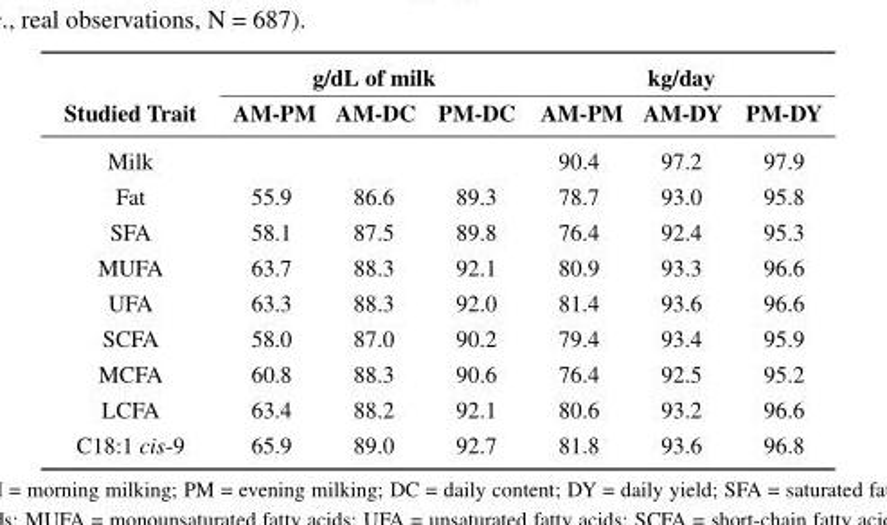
<table><thead><tr><td rowspan="2">Studied Trait</td><td colspan="3">g/dL of milk</td><td colspan="3">kg/day</td></tr><tr><td>AM-PM</td><td>AM-DC</td><td>PM-DC</td><td>AM-PM</td><td>AM-DY</td><td>PM-DY</td></tr></thead><tbody><tr><td>Milk</td><td></td><td></td><td></td><td>90.4</td><td>97.2</td><td>97.9</td></tr><tr><td>Fat</td><td>55.9</td><td>86.6</td><td>89.3</td><td>78.7</td><td>93.0</td><td>95.8</td></tr><tr><td>SFA</td><td>58.1</td><td>87.5</td><td>89.8</td><td>76.4</td><td>92.4</td><td>95.3</td></tr><tr><td>MUFA</td><td>63.7</td><td>88.3</td><td>92.1</td><td>80.9</td><td>93.3</td><td>96.6</td></tr><tr><td>UFA</td><td>63.3</td><td>88.3</td><td>92.0</td><td>81.4</td><td>93.6</td><td>96.6</td></tr><tr><td>SCFA</td><td>58.0</td><td>87.0</td><td>90.2</td><td>79.4</td><td>93.4</td><td>95.9</td></tr><tr><td>MCFA</td><td>60.8</td><td>88.3</td><td>90.6</td><td>76.4</td><td>92.5</td><td>95.2</td></tr><tr><td>LCFA</td><td>63.4</td><td>88.2</td><td>92.1</td><td>80.6</td><td>93.2</td><td>96.6</td></tr><tr><td>C18:1 cis-9</td><td>65.9</td><td>89.0</td><td>92.7</td><td>81.8</td><td>93.6</td><td>96.8</td></tr></tbody></table>